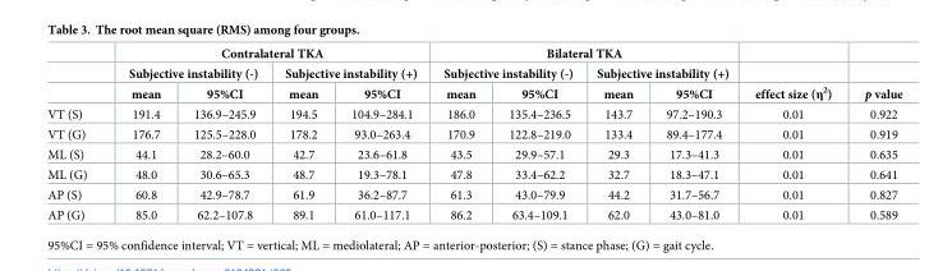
<table><thead><tr><td rowspan="3"></td><td colspan="4">Contralateral TKA</td><td colspan="4">Bilateral TKA</td><td rowspan="3">effect size (η<sup>2</sup>)</td><td rowspan="3">p value</td></tr><tr><td colspan="2">Subjective instability (-)</td><td colspan="2">Subjective instability (+)</td><td colspan="2">Subjective instability (-)</td><td colspan="2">Subjective instability (+)</td></tr><tr><td>mean</td><td>95%CI</td><td>mean</td><td>95%CI</td><td>mean</td><td>95%CI</td><td>mean</td><td>95%CI</td></tr></thead><tbody><tr><td>VT (S)</td><td>191.4</td><td>136.9–245.9</td><td>194.5</td><td>104.9–284.1</td><td>186.0</td><td>135.4–236.5</td><td>143.7</td><td>97.2–190.3</td><td>0.01</td><td>0.922</td></tr><tr><td>VT (G)</td><td>176.7</td><td>125.5–228.0</td><td>178.2</td><td>93.0–263.4</td><td>170.9</td><td>122.8–219.0</td><td>133.4</td><td>89.4–177.4</td><td>0.01</td><td>0.919</td></tr><tr><td>ML (S)</td><td>44.1</td><td>28.2–60.0</td><td>42.7</td><td>23.6–61.8</td><td>43.5</td><td>29.9–57.1</td><td>29.3</td><td>17.3–41.3</td><td>0.01</td><td>0.635</td></tr><tr><td>ML (G)</td><td>48.0</td><td>30.6–65.3</td><td>48.7</td><td>19.3–78.1</td><td>47.8</td><td>33.4–62.2</td><td>32.7</td><td>18.3–47.1</td><td>0.01</td><td>0.641</td></tr><tr><td>AP (S)</td><td>60.8</td><td>42.9–78.7</td><td>61.9</td><td>36.2–87.7</td><td>61.3</td><td>43.0–79.9</td><td>44.2</td><td>31.7–56.7</td><td>0.01</td><td>0.827</td></tr><tr><td>AP (G)</td><td>85.0</td><td>62.2–107.8</td><td>89.1</td><td>61.0–117.1</td><td>86.2</td><td>63.4–109.1</td><td>62.0</td><td>43.0–81.0</td><td>0.01</td><td>0.589</td></tr></tbody></table>